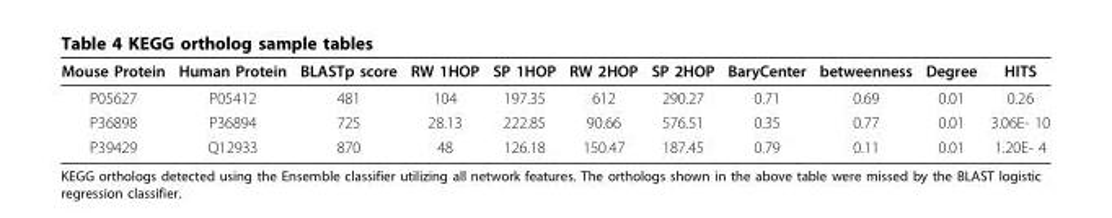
<table><thead><tr><td>Mouse Protein</td><td>Human Protein</td><td>BLASTp score</td><td>RW 1HOP</td><td>SP 1HOP</td><td>RW 2HOP</td><td>SP 2HOP</td><td>BaryCenter</td><td>betweenness</td><td>Degree</td><td>HITS</td></tr></thead><tbody><tr><td>P05627</td><td>P05412</td><td>481</td><td>104</td><td>197.35</td><td>612</td><td>290.27</td><td>0.71</td><td>0.69</td><td>0.01</td><td>0.26</td></tr><tr><td>P36898</td><td>P36894</td><td>725</td><td>28.13</td><td>222.85</td><td>90.66</td><td>576.51</td><td>0.35</td><td>0.77</td><td>0.01</td><td>3.06E- 10</td></tr><tr><td>P39429</td><td>Q12933</td><td>870</td><td>48</td><td>126.18</td><td>150.47</td><td>187.45</td><td>0.79</td><td>0.11</td><td>0.01</td><td>1.20E- 4</td></tr></tbody></table>